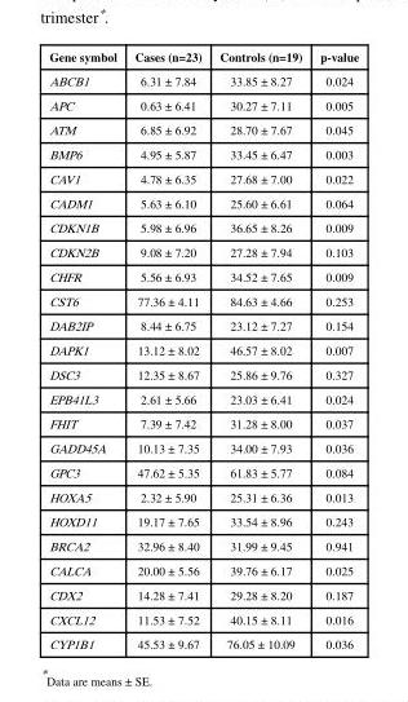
<table><thead><tr><td>Gene symbol</td><td>Cases (n=23)</td><td>Controls (n=19)</td><td>p-value</td></tr></thead><tbody><tr><td>ABCB1</td><td>6.31 ± 7.84</td><td>33.85 ± 8.27</td><td>0.024</td></tr><tr><td>APC</td><td>0.63 ± 6.41</td><td>30.27 ± 7.11</td><td>0.005</td></tr><tr><td>ATM</td><td>6.85 ± 6.92</td><td>28.70 ± 7.67</td><td>0.045</td></tr><tr><td>BMP6</td><td>4.95 ± 5.87</td><td>33.45 ± 6.47</td><td>0.003</td></tr><tr><td>CAV1</td><td>4.78 ± 6.35</td><td>27.68 ± 7.00</td><td>0.022</td></tr><tr><td>CADM1</td><td>5.63 ± 6.10</td><td>25.60 ± 6.61</td><td>0.064</td></tr><tr><td>CDKN1B</td><td>5.98 ± 6.96</td><td>36.65 ± 8.26</td><td>0.009</td></tr><tr><td>CDKN2B</td><td>9.08 ± 7.20</td><td>27.28 ± 7.94</td><td>0.103</td></tr><tr><td>CHFR</td><td>5.56 ± 6.93</td><td>34.52 ± 7.65</td><td>0.009</td></tr><tr><td>CST6</td><td>77.36 ± 4.11</td><td>84.63 ± 4.66</td><td>0.253</td></tr><tr><td>DAB2IP</td><td>8.44 ± 6.75</td><td>23.12 ± 7.27</td><td>0.154</td></tr><tr><td>DAPK1</td><td>13.12 ± 8.02</td><td>46.57 ± 8.02</td><td>0.007</td></tr><tr><td>DSC3</td><td>12.35 ± 8.67</td><td>25.86 ± 9.76</td><td>0.327</td></tr><tr><td>EPB41L3</td><td>2.61 ± 5.66</td><td>23.03 ± 6.41</td><td>0.024</td></tr><tr><td>FHIT</td><td>7.39 ± 7.42</td><td>31.28 ± 8.00</td><td>0.037</td></tr><tr><td>GADD45A</td><td>10.13 ± 7.35</td><td>34.00 ± 7.93</td><td>0.036</td></tr><tr><td>GPC3</td><td>47.62 ± 5.35</td><td>61.83 ± 5.77</td><td>0.084</td></tr><tr><td>HOXA5</td><td>2.32 ± 5.90</td><td>25.31 ± 6.36</td><td>0.013</td></tr><tr><td>HOXD11</td><td>19.17 ± 7.65</td><td>33.54 ± 8.96</td><td>0.243</td></tr><tr><td>BRCA2</td><td>32.96 ± 8.40</td><td>31.99 ± 9.45</td><td>0.941</td></tr><tr><td>CALCA</td><td>20.00 ± 5.56</td><td>39.76 ± 6.17</td><td>0.025</td></tr><tr><td>CDX2</td><td>14.28 ± 7.41</td><td>29.28 ± 8.20</td><td>0.187</td></tr><tr><td>CXCL12</td><td>11.53 ± 7.52</td><td>40.15 ± 8.11</td><td>0.016</td></tr><tr><td>CYP1B1</td><td>45.53 ± 9.67</td><td>76.05 ± 10.09</td><td>0.036</td></tr></tbody></table>